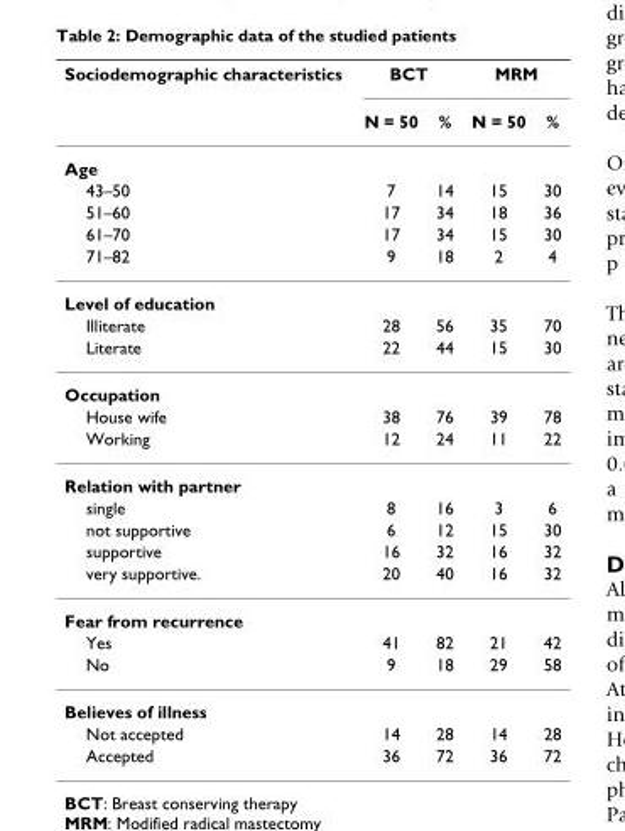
<table><thead><tr><td rowspan="2">Sociodemographic characteristics</td><td colspan="2">BCT</td><td colspan="2">MRM</td></tr><tr><td>N = 50</td><td>%</td><td>N = 50</td><td>%</td></tr></thead><tbody><tr><td colspan="5">Age</td></tr><tr><td>43–50</td><td>7</td><td>14</td><td>15</td><td>30</td></tr><tr><td>51–60</td><td>17</td><td>34</td><td>18</td><td>36</td></tr><tr><td>61–70</td><td>17</td><td>34</td><td>15</td><td>30</td></tr><tr><td>71–82</td><td>9</td><td>18</td><td>2</td><td>4</td></tr><tr><td colspan="5">Level of education</td></tr><tr><td>Illiterate</td><td>28</td><td>56</td><td>35</td><td>70</td></tr><tr><td>Literate</td><td>22</td><td>44</td><td>15</td><td>30</td></tr><tr><td colspan="5">Occupation</td></tr><tr><td>House wife</td><td>38</td><td>76</td><td>39</td><td>78</td></tr><tr><td>Working</td><td>12</td><td>24</td><td>11</td><td>22</td></tr><tr><td colspan="5">Relation with partner</td></tr><tr><td>single</td><td>8</td><td>16</td><td>3</td><td>6</td></tr><tr><td>not supportive</td><td>6</td><td>12</td><td>15</td><td>30</td></tr><tr><td>supportive</td><td>16</td><td>32</td><td>16</td><td>32</td></tr><tr><td>very supportive.</td><td>20</td><td>40</td><td>16</td><td>32</td></tr><tr><td colspan="5">Fear from recurrence</td></tr><tr><td>Yes</td><td>41</td><td>82</td><td>21</td><td>42</td></tr><tr><td>No</td><td>9</td><td>18</td><td>29</td><td>58</td></tr><tr><td colspan="5">Believes of illness</td></tr><tr><td>Not accepted</td><td>14</td><td>28</td><td>14</td><td>28</td></tr><tr><td>Accepted</td><td>36</td><td>72</td><td>36</td><td>72</td></tr></tbody></table>